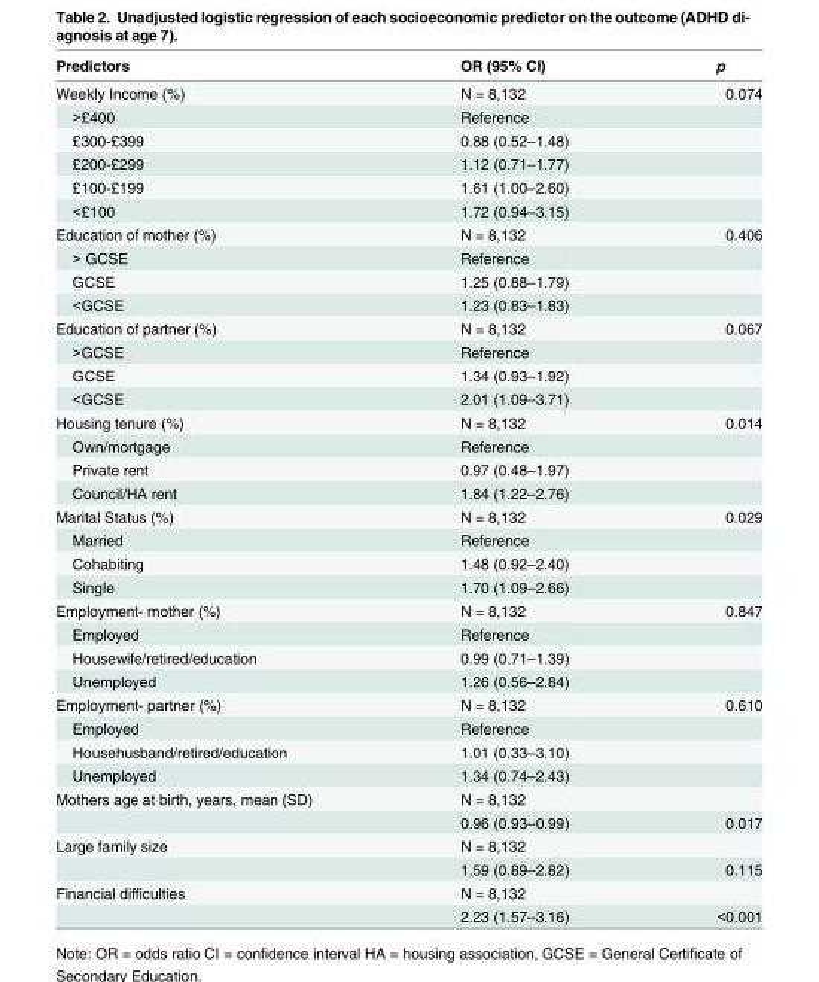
<table><thead><tr><td>Predictors</td><td>OR (95% CI)</td><td>p</td></tr></thead><tbody><tr><td>Weekly Income (%)</td><td>N = 8,132</td><td>0.074</td></tr><tr><td>&gt;£400</td><td>Reference</td><td></td></tr><tr><td>£300-£399</td><td>0.88 (0.52–1.48)</td><td></td></tr><tr><td>£200-£299</td><td>1.12 (0.71–1.77)</td><td></td></tr><tr><td>£100-£199</td><td>1.61 (1.00–2.60)</td><td></td></tr><tr><td>&lt;£100</td><td>1.72 (0.94–3.15)</td><td></td></tr><tr><td>Education of mother (%)</td><td>N = 8,132</td><td>0.406</td></tr><tr><td>&gt; GCSE</td><td>Reference</td><td></td></tr><tr><td>GCSE</td><td>1.25 (0.88–1.79)</td><td></td></tr><tr><td>&lt;GCSE</td><td>1.23 (0.83–1.83)</td><td></td></tr><tr><td>Education of partner (%)</td><td>N = 8,132</td><td>0.067</td></tr><tr><td>&gt;GCSE</td><td>Reference</td><td></td></tr><tr><td>GCSE</td><td>1.34 (0.93–1.92)</td><td></td></tr><tr><td>&lt;GCSE</td><td>2.01 (1.09–3.71)</td><td></td></tr><tr><td>Housing tenure (%)</td><td>N = 8,132</td><td>0.014</td></tr><tr><td>Own/mortgage</td><td>Reference</td><td></td></tr><tr><td>Private rent</td><td>0.97 (0.48–1.97)</td><td></td></tr><tr><td>Council/HA rent</td><td>1.84 (1.22–2.76)</td><td></td></tr><tr><td>Marital Status (%)</td><td>N = 8,132</td><td>0.029</td></tr><tr><td>Married</td><td>Reference</td><td></td></tr><tr><td>Cohabiting</td><td>1.48 (0.92–2.40)</td><td></td></tr><tr><td>Single</td><td>1.70 (1.09–2.66)</td><td></td></tr><tr><td>Employment- mother (%)</td><td>N = 8,132</td><td>0.847</td></tr><tr><td>Employed</td><td>Reference</td><td></td></tr><tr><td>Housewife/retired/education</td><td>0.99 (0.71–1.39)</td><td></td></tr><tr><td>Unemployed</td><td>1.26 (0.56–2.84)</td><td></td></tr><tr><td>Employment- partner (%)</td><td>N = 8,132</td><td>0.610</td></tr><tr><td>Employed</td><td>Reference</td><td></td></tr><tr><td>Househusband/retired/education</td><td>1.01 (0.33–3.10)</td><td></td></tr><tr><td>Unemployed</td><td>1.34 (0.74–2.43)</td><td></td></tr><tr><td rowspan="2">Mothers age at birth, years, mean (SD)</td><td>N = 8,132</td><td></td></tr><tr><td>0.96 (0.93–0.99)</td><td>0.017</td></tr><tr><td rowspan="2">Large family size</td><td>N = 8,132</td><td></td></tr><tr><td>1.59 (0.89–2.82)</td><td>0.115</td></tr><tr><td rowspan="2">Financial difficulties</td><td>N = 8,132</td><td></td></tr><tr><td>2.23 (1.57–3.16)</td><td>&lt;0.001</td></tr></tbody></table>